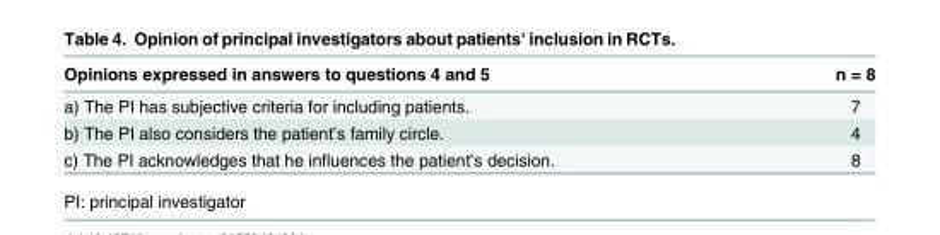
<table><thead><tr><td>Opinions expressed in answers to questions 4 and 5</td><td>n = 8</td></tr></thead><tbody><tr><td>a) The PI has subjective criteria for including patients.</td><td>7</td></tr><tr><td>b) The PI also considers the patient’s family circle.</td><td>4</td></tr><tr><td>c) The PI acknowledges that he influences the patient’s decision.</td><td>8</td></tr></tbody></table>